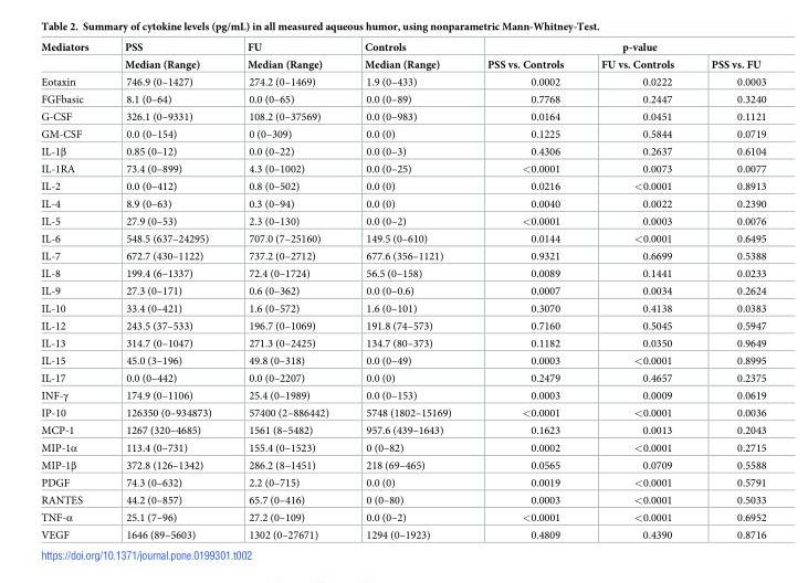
<table><thead><tr><td rowspan="2">Mediators</td><td rowspan="2">PSS Median (Range)</td><td rowspan="2">FU Median (Range)</td><td rowspan="2">Controls Median (Range)</td><td colspan="3">p-value</td></tr><tr><td>PSS vs. Controls</td><td>FU vs. Controls</td><td>PSS vs. FU</td></tr></thead><tbody><tr><td>Eotaxin</td><td>746.9 (0–1427)</td><td>274.2 (0–1469)</td><td>1.9 (0–433)</td><td>0.0002</td><td>0.0222</td><td>0.0003</td></tr><tr><td>FGFbasic</td><td>8.1 (0–64)</td><td>0.0 (0–65)</td><td>0.0 (0–89)</td><td>0.7768</td><td>0.2447</td><td>0.3240</td></tr><tr><td>G-CSF</td><td>326.1 (0–9331)</td><td>108.2 (0–37569)</td><td>0.0 (0–983)</td><td>0.0164</td><td>0.0451</td><td>0.1121</td></tr><tr><td>GM-CSF</td><td>0.0 (0–154)</td><td>0 (0–309)</td><td>0.0 (0)</td><td>0.1225</td><td>0.5844</td><td>0.0719</td></tr><tr><td>IL-1β</td><td>0.85 (0–12)</td><td>0.0 (0–22)</td><td>0.0 (0–3)</td><td>0.4306</td><td>0.2637</td><td>0.6104</td></tr><tr><td>IL-1RA</td><td>73.4 (0–899)</td><td>4.3 (0–1002)</td><td>0.0 (0–25)</td><td>&lt;0.0001</td><td>0.0073</td><td>0.0077</td></tr><tr><td>IL-2</td><td>0.0 (0–412)</td><td>0.8 (0–502)</td><td>0.0 (0)</td><td>0.0216</td><td>&lt;0.0001</td><td>0.8913</td></tr><tr><td>IL-4</td><td>8.9 (0–63)</td><td>0.3 (0–94)</td><td>0.0 (0)</td><td>0.0040</td><td>0.0022</td><td>0.2390</td></tr><tr><td>IL-5</td><td>27.9 (0–53)</td><td>2.3 (0–130)</td><td>0.0 (0–2)</td><td>&lt;0.0001</td><td>0.0003</td><td>0.0076</td></tr><tr><td>IL-6</td><td>548.5 (637–24295)</td><td>707.0 (7–25160)</td><td>149.5 (0–610)</td><td>0.0144</td><td>&lt;0.0001</td><td>0.6495</td></tr><tr><td>IL-7</td><td>672.7 (430–1122)</td><td>737.2 (0–2712)</td><td>677.6 (356–1121)</td><td>0.9321</td><td>0.6699</td><td>0.5388</td></tr><tr><td>IL-8</td><td>199.4 (6–1337)</td><td>72.4 (0–1724)</td><td>56.5 (0–158)</td><td>0.0089</td><td>0.1441</td><td>0.0233</td></tr><tr><td>IL-9</td><td>27.3 (0–171)</td><td>0.6 (0–362)</td><td>0.0 (0–0.6)</td><td>0.0007</td><td>0.0034</td><td>0.2624</td></tr><tr><td>IL-10</td><td>33.4 (0–421)</td><td>1.6 (0–572)</td><td>1.6 (0–101)</td><td>0.3070</td><td>0.4138</td><td>0.0383</td></tr><tr><td>IL-12</td><td>243.5 (37–533)</td><td>196.7 (0–1069)</td><td>191.8 (74–573)</td><td>0.7160</td><td>0.5045</td><td>0.5947</td></tr><tr><td>IL-13</td><td>314.7 (0–1047)</td><td>271.3 (0–2425)</td><td>134.7 (80–373)</td><td>0.1182</td><td>0.0350</td><td>0.9649</td></tr><tr><td>IL-15</td><td>45.0 (3–196)</td><td>49.8 (0–318)</td><td>0.0 (0–49)</td><td>0.0003</td><td>&lt;0.0001</td><td>0.8995</td></tr><tr><td>IL-17</td><td>0.0 (0–442)</td><td>0.0 (0–2207)</td><td>0.0 (0)</td><td>0.2479</td><td>0.4657</td><td>0.2375</td></tr><tr><td>INF-γ</td><td>174.9 (0–1106)</td><td>25.4 (0–1989)</td><td>0.0 (0–153)</td><td>0.0003</td><td>0.0009</td><td>0.0619</td></tr><tr><td>IP-10</td><td>126350 (0–934873)</td><td>57400 (2–886442)</td><td>5748 (1802–15169)</td><td>&lt;0.0001</td><td>&lt;0.0001</td><td>0.0036</td></tr><tr><td>MCP-1</td><td>1267 (320–4685)</td><td>1561 (8–5482)</td><td>957.6 (439–1643)</td><td>0.1623</td><td>0.0013</td><td>0.2043</td></tr><tr><td>MIP-1α</td><td>113.4 (0–731)</td><td>155.4 (0–1523)</td><td>0 (0–82)</td><td>0.0002</td><td>&lt;0.0001</td><td>0.2715</td></tr><tr><td>MIP-1β</td><td>372.8 (126–1342)</td><td>286.2 (8–1451)</td><td>218 (69–465)</td><td>0.0565</td><td>0.0709</td><td>0.5588</td></tr><tr><td>PDGF</td><td>74.3 (0–632)</td><td>2.2 (0–715)</td><td>0.0 (0)</td><td>0.0019</td><td>&lt;0.0001</td><td>0.5791</td></tr><tr><td>RANTES</td><td>44.2 (0–857)</td><td>65.7 (0–416)</td><td>0 (0–80)</td><td>0.0003</td><td>&lt;0.0001</td><td>0.5033</td></tr><tr><td>TNF-α</td><td>25.1 (7–96)</td><td>27.2 (0–109)</td><td>0.0 (0–2)</td><td>&lt;0.0001</td><td>&lt;0.0001</td><td>0.6952</td></tr><tr><td>VEGF</td><td>1646 (89–5603)</td><td>1302 (0–27671)</td><td>1294 (0–1923)</td><td>0.4809</td><td>0.4390</td><td>0.8716</td></tr></tbody></table>